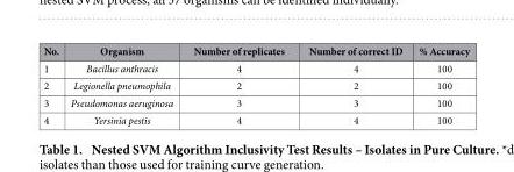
<table><thead><tr><td>No.</td><td>Organism</td><td>Number of replicates</td><td>Number of correct ID</td><td>% Accuracy</td></tr></thead><tbody><tr><td>1</td><td>Bacillus anthracis</td><td>4</td><td>4</td><td>100</td></tr><tr><td>2</td><td>Legionella pneumophila</td><td>2</td><td>2</td><td>100</td></tr><tr><td>3</td><td>Pseudomonas aeruginosa</td><td>3</td><td>3</td><td>100</td></tr><tr><td>4</td><td>Yersinia pestis</td><td>4</td><td>4</td><td>100</td></tr></tbody></table>